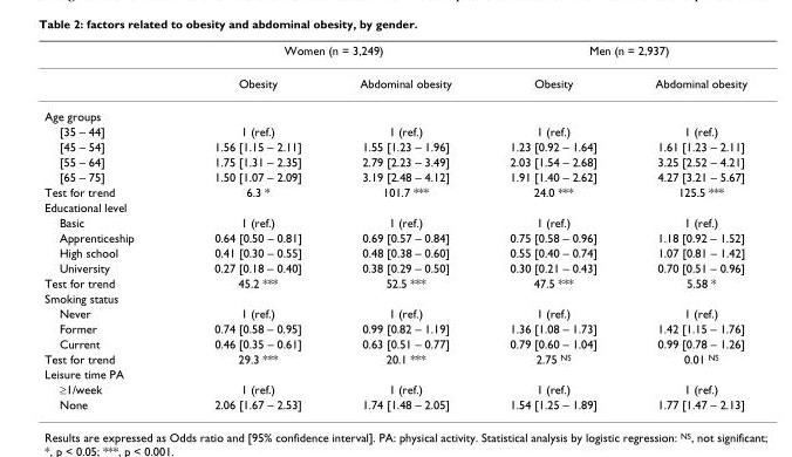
<table><thead><tr><td rowspan="2"></td><td colspan="2">Women (n = 3,249)</td><td colspan="2">Men (n = 2,937)</td></tr><tr><td>Obesity</td><td>Abdominal obesity</td><td>Obesity</td><td>Abdominal obesity</td></tr></thead><tbody><tr><td colspan="5">Age groups</td></tr><tr><td>[35 – 44]</td><td>1 (ref.)</td><td>1 (ref.)</td><td>1 (ref.)</td><td>1 (ref.)</td></tr><tr><td>[45 – 54]</td><td>1.56 [1.15 – 2.11]</td><td>1.55 [1.23 – 1.96]</td><td>1.23 [0.92 – 1.64]</td><td>1.61 [1.23 – 2.11]</td></tr><tr><td>[55 – 64]</td><td>1.75 [1.31 – 2.35]</td><td>2.79 [2.23 – 3.49]</td><td>2.03 [1.54 – 2.68]</td><td>3.25 [2.52 – 4.21]</td></tr><tr><td>[65 – 75]</td><td>1.50 [1.07 – 2.09]</td><td>3.19 [2.48 – 4.12]</td><td>1.91 [1.40 – 2.62]</td><td>4.27 [3.21 – 5.67]</td></tr><tr><td>Test for trend</td><td>6.3 *</td><td>101.7 ***</td><td>24.0 ***</td><td>125.5 ***</td></tr><tr><td colspan="5">Educational level</td></tr><tr><td>Basic</td><td>1 (ref.)</td><td>1 (ref.)</td><td>1 (ref.)</td><td>1 (ref.)</td></tr><tr><td>Apprenticeship</td><td>0.64 [0.50 – 0.81]</td><td>0.69 [0.57 – 0.84]</td><td>0.75 [0.58 – 0.96]</td><td>1.18 [0.92 – 1.52]</td></tr><tr><td>High school</td><td>0.41 [0.30 – 0.55]</td><td>0.48 [0.38 – 0.60]</td><td>0.55 [0.40 – 0.74]</td><td>1.07 [0.81 – 1.42]</td></tr><tr><td>University</td><td>0.27 [0.18 – 0.40]</td><td>0.38 [0.29 – 0.50]</td><td>0.30 [0.21 – 0.43]</td><td>0.70 [0.51 – 0.96]</td></tr><tr><td>Test for trend</td><td>45.2 ***</td><td>52.5 ***</td><td>47.5 ***</td><td>5.58 *</td></tr><tr><td colspan="5">Smoking status</td></tr><tr><td>Never</td><td>1 (ref.)</td><td>1 (ref.)</td><td>1 (ref.)</td><td>1 (ref.)</td></tr><tr><td>Former</td><td>0.74 [0.58 – 0.95]</td><td>0.99 [0.82 – 1.19]</td><td>1.36 [1.08 – 1.73]</td><td>1.42 [1.15 – 1.76]</td></tr><tr><td>Current</td><td>0.46 [0.35 – 0.61]</td><td>0.63 [0.51 – 0.77]</td><td>0.79 [0.60 – 1.04]</td><td>0.99 [0.78 – 1.26]</td></tr><tr><td>Test for trend</td><td>29.3 ***</td><td>20.1 ***</td><td>2.75 <sup>NS</sup></td><td>0.01 <sup>NS</sup></td></tr><tr><td colspan="5">Leisure time PA</td></tr><tr><td>≥1/week</td><td>1 (ref.)</td><td>1 (ref.)</td><td>1 (ref.)</td><td>1 (ref.)</td></tr><tr><td>None</td><td>2.06 [1.67 – 2.53]</td><td>1.74 [1.48 – 2.05]</td><td>1.54 [1.25 – 1.89]</td><td>1.77 [1.47 – 2.13]</td></tr></tbody></table>